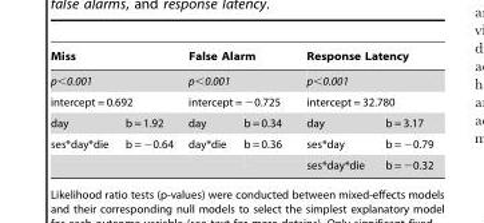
<table><thead><tr><td rowspan="3" colspan="2">Miss p&lt;0.001 intercept = 0.692</td><td rowspan="3" colspan="2">False Alarm p&lt;0.001 intercept = −0.725</td><td rowspan="3" colspan="2">Response Latency p&lt;0.001 intercept = 32.780</td></tr><tr></tr><tr></tr><tr><td>day</td><td>b = 1.92</td><td>day</td><td>b = 0.34</td><td>day</td><td>b = 3.17</td></tr></thead><tbody><tr><td rowspan="2">ses*day*die</td><td>b = −0.64</td><td>day*die</td><td>b = 0.36</td><td>ses*day</td><td>b = −0.79</td></tr><tr><td></td><td></td><td></td><td>ses*day*die</td><td>b = −0.32</td></tr></tbody></table>